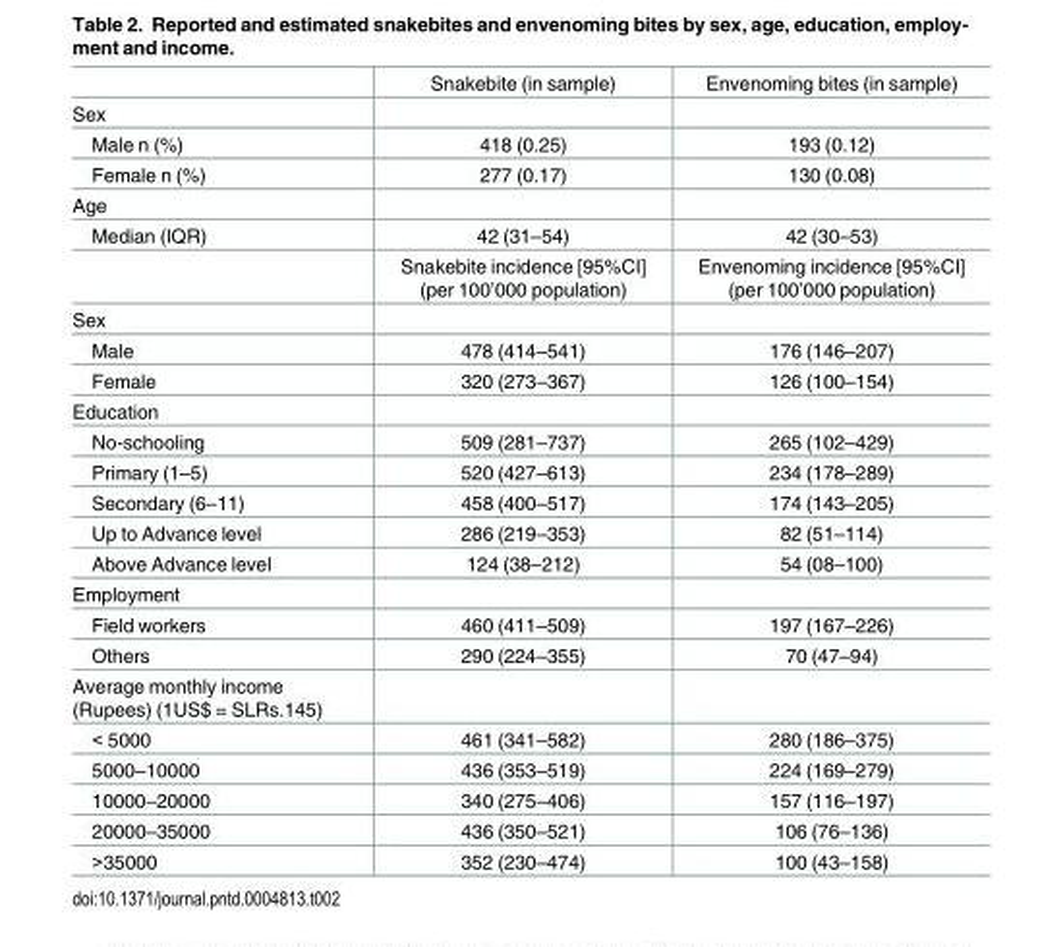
<table><thead><tr><td></td><td>Snakebite (in sample)</td><td>Envenoming bites (in sample)</td></tr></thead><tbody><tr><td colspan="3">Sex</td></tr><tr><td>Male n (%)</td><td>418 (0.25)</td><td>193 (0.12)</td></tr><tr><td>Female n (%)</td><td>277 (0.17)</td><td>130 (0.08)</td></tr><tr><td colspan="3">Age</td></tr><tr><td rowspan="2">Median (IQR)</td><td>42 (31–54)</td><td>42 (30–53)</td></tr><tr><td>Snakebite incidence [95%CI] (per 100’000 population)</td><td>Envenoming incidence [95%CI] (per 100’000 population)</td></tr><tr><td colspan="3">Sex</td></tr><tr><td>Male</td><td>478 (414–541)</td><td>176 (146–207)</td></tr><tr><td>Female</td><td>320 (273–367)</td><td>126 (100–154)</td></tr><tr><td colspan="3">Education</td></tr><tr><td>No-schooling</td><td>509 (281–737)</td><td>265 (102–429)</td></tr><tr><td>Primary (1–5)</td><td>520 (427–613)</td><td>234 (178–289)</td></tr><tr><td>Secondary (6–11)</td><td>458 (400–517)</td><td>174 (143–205)</td></tr><tr><td>Up to Advance level</td><td>286 (219–353)</td><td>82 (51–114)</td></tr><tr><td>Above Advance level</td><td>124 (38–212)</td><td>54 (08–100)</td></tr><tr><td colspan="3">Employment</td></tr><tr><td>Field workers</td><td>460 (411–509)</td><td>197 (167–226)</td></tr><tr><td>Others</td><td>290 (224–355)</td><td>70 (47–94)</td></tr><tr><td colspan="3">Average monthly income (Rupees) (1US$ = SLRs.145)</td></tr><tr><td>&lt; 5000</td><td>461 (341–582)</td><td>280 (186–375)</td></tr><tr><td>5000–10000</td><td>436 (353–519)</td><td>224 (169–279)</td></tr><tr><td>10000–20000</td><td>340 (275–406)</td><td>157 (116–197)</td></tr><tr><td>20000–35000</td><td>436 (350–521)</td><td>106 (76–136)</td></tr><tr><td>&gt;35000</td><td>352 (230–474)</td><td>100 (43–158)</td></tr></tbody></table>